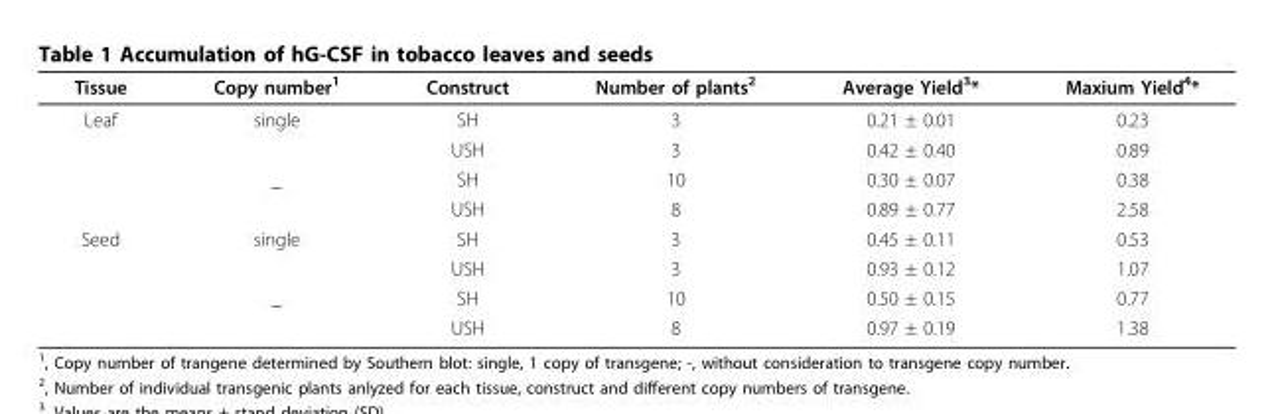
<table><thead><tr><td>Tissue</td><td>Copy number<sup>1</sup></td><td>Construct</td><td>Number of plants<sup>2</sup></td><td>Average Yield<sup>3</sup>*</td><td>Maxium Yield<sup>4</sup>*</td></tr></thead><tbody><tr><td rowspan="4">Leaf</td><td>single</td><td>SH</td><td>3</td><td>0.21 ± 0.01</td><td>0.23</td></tr><tr><td></td><td>USH</td><td>3</td><td>0.42 ± 0.40</td><td>0.89</td></tr><tr><td>_</td><td>SH</td><td>10</td><td>0.30 ± 0.07</td><td>0.38</td></tr><tr><td></td><td>USH</td><td>8</td><td>0.89 ± 0.77</td><td>2.58</td></tr><tr><td rowspan="4">Seed</td><td>single</td><td>SH</td><td>3</td><td>0.45 ± 0.11</td><td>0.53</td></tr><tr><td></td><td>USH</td><td>3</td><td>0.93 ± 0.12</td><td>1.07</td></tr><tr><td>_</td><td>SH</td><td>10</td><td>0.50 ± 0.15</td><td>0.77</td></tr><tr><td></td><td>USH</td><td>8</td><td>0.97 ± 0.19</td><td>1.38</td></tr></tbody></table>